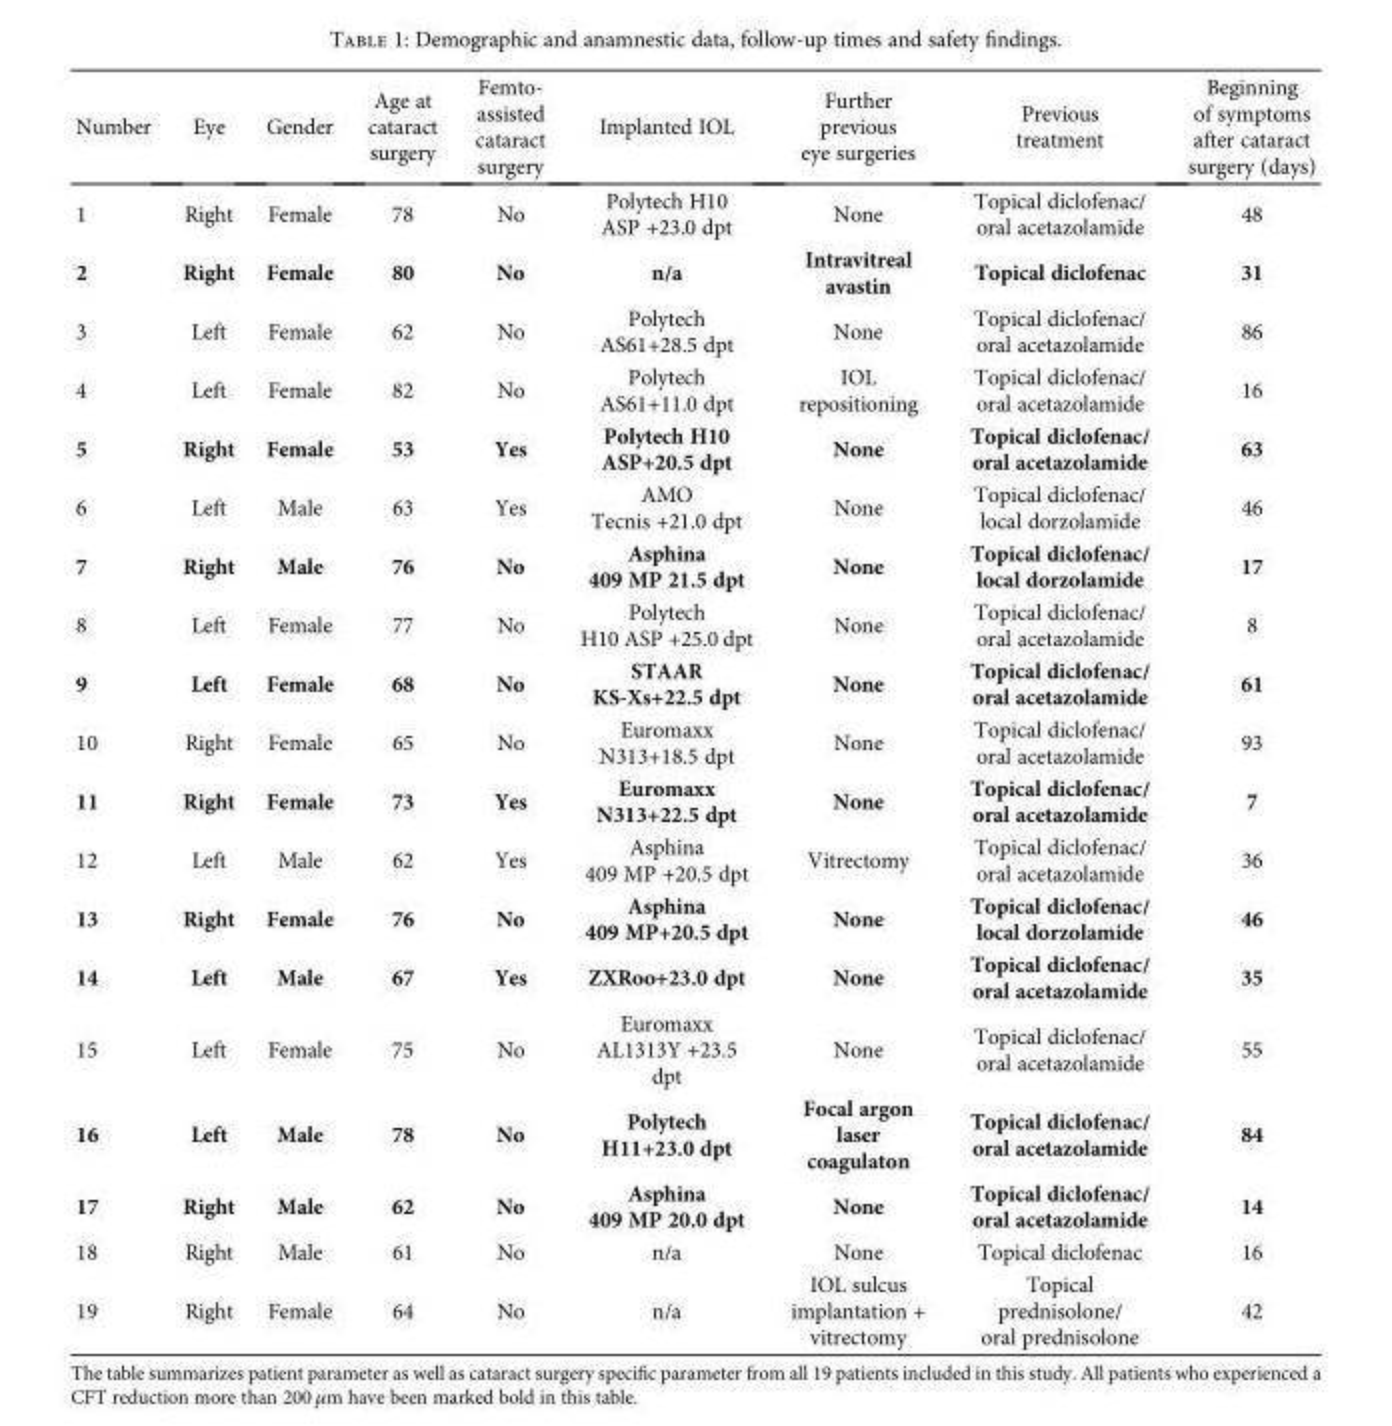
<table><thead><tr><td>Number</td><td>Eye</td><td>Gender</td><td>Age at cataract surgery</td><td>Femto- assisted cataract surgery</td><td>Implanted IOL</td><td>Further previous eye surgeries</td><td>Previous treatment</td><td>Beginning of symptoms after cataract surgery (days)</td></tr></thead><tbody><tr><td>1</td><td>Right</td><td>Female</td><td>78</td><td>No</td><td>Polytech H10 ASP +23.0 dpt</td><td>None</td><td>Topical diclofenac/ oral acetazolamide</td><td>48</td></tr><tr><td>2</td><td>Right</td><td>Female</td><td>80</td><td>No</td><td>n/a</td><td>Intravitreal avastin</td><td>Topical diclofenac</td><td>31</td></tr><tr><td>3</td><td>Left</td><td>Female</td><td>62</td><td>No</td><td>Polytech AS61+28.5 dpt</td><td>None</td><td>Topical diclofenac/ oral acetazolamide</td><td>86</td></tr><tr><td>4</td><td>Left</td><td>Female</td><td>82</td><td>No</td><td>Polytech AS61+11.0 dpt</td><td>IOL repositioning</td><td>Topical diclofenac/ oral acetazolamide</td><td>16</td></tr><tr><td>5</td><td>Right</td><td>Female</td><td>53</td><td>Yes</td><td>Polytech H10 ASP+20.5 dpt</td><td>None</td><td>Topical diclofenac/ oral acetazolamide</td><td>63</td></tr><tr><td>6</td><td>Left</td><td>Male</td><td>63</td><td>Yes</td><td>AMO Tecnis +21.0 dpt</td><td>None</td><td>Topical diclofenac/ local dorzolamide</td><td>46</td></tr><tr><td>7</td><td>Right</td><td>Male</td><td>76</td><td>No</td><td>Asphina 409 MP 21.5 dpt</td><td>None</td><td>Topical diclofenac/ local dorzolamide</td><td>17</td></tr><tr><td>8</td><td>Left</td><td>Female</td><td>77</td><td>No</td><td>Polytech H10 ASP +25.0 dpt</td><td>None</td><td>Topical diclofenac/ oral acetazolamide</td><td>8</td></tr><tr><td>9</td><td>Left</td><td>Female</td><td>68</td><td>No</td><td>STAAR KS-Xs+22.5 dpt</td><td>None</td><td>Topical diclofenac/ oral acetazolamide</td><td>61</td></tr><tr><td>10</td><td>Right</td><td>Female</td><td>65</td><td>No</td><td>Euromaxx N313+18.5 dpt</td><td>None</td><td>Topical diclofenac/ oral acetazolamide</td><td>93</td></tr><tr><td>11</td><td>Right</td><td>Female</td><td>73</td><td>Yes</td><td>Euromaxx N313+22.5 dpt</td><td>None</td><td>Topical diclofenac/ oral acetazolamide</td><td>7</td></tr><tr><td>12</td><td>Left</td><td>Male</td><td>62</td><td>Yes</td><td>Asphina 409 MP +20.5 dpt</td><td>Vitrectomy</td><td>Topical diclofenac/ oral acetazolamide</td><td>36</td></tr><tr><td>13</td><td>Right</td><td>Female</td><td>76</td><td>No</td><td>Asphina 409 MP+20.5 dpt</td><td>None</td><td>Topical diclofenac/ local dorzolamide</td><td>46</td></tr><tr><td>14</td><td>Left</td><td>Male</td><td>67</td><td>Yes</td><td>ZXRoo+23.0 dpt</td><td>None</td><td>Topical diclofenac/ oral acetazolamide</td><td>35</td></tr><tr><td>15</td><td>Left</td><td>Female</td><td>75</td><td>No</td><td>Euromaxx AL1313Y +23.5 dpt</td><td>None</td><td>Topical diclofenac/ oral acetazolamide</td><td>55</td></tr><tr><td>16</td><td>Left</td><td>Male</td><td>78</td><td>No</td><td>Polytech H11+23.0 dpt</td><td>Focal argon laser coagulaton</td><td>Topical diclofenac/ oral acetazolamide</td><td>84</td></tr><tr><td>17</td><td>Right</td><td>Male</td><td>62</td><td>No</td><td>Asphina 409 MP 20.0 dpt</td><td>None</td><td>Topical diclofenac/ oral acetazolamide</td><td>14</td></tr><tr><td>18</td><td>Right</td><td>Male</td><td>61</td><td>No</td><td>n/a</td><td>None</td><td>Topical diclofenac</td><td>16</td></tr><tr><td>19</td><td>Right</td><td>Female</td><td>64</td><td>No</td><td>n/a</td><td>IOL sulcus implantation + vitrectomy</td><td>Topical prednisolone/ oral prednisolone</td><td>42</td></tr></tbody></table>